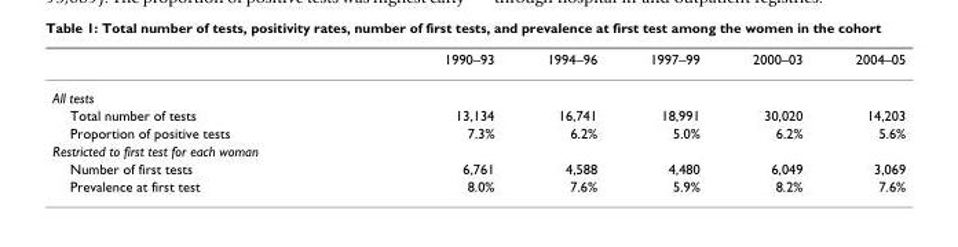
<table><thead><tr><td></td><td>1990–93</td><td>1994–96</td><td>1997–99</td><td>2000–03</td><td>2004–05</td></tr></thead><tbody><tr><td colspan="6">All tests</td></tr><tr><td>Total number of tests</td><td>13,134</td><td>16,741</td><td>18,991</td><td>30,020</td><td>14,203</td></tr><tr><td>Proportion of positive tests</td><td>7.3%</td><td>6.2%</td><td>5.0%</td><td>6.2%</td><td>5.6%</td></tr><tr><td colspan="6">Restricted to first test for each woman</td></tr><tr><td>Number of first tests</td><td>6,761</td><td>4,588</td><td>4,480</td><td>6,049</td><td>3,069</td></tr><tr><td>Prevalence at first test</td><td>8.0%</td><td>7.6%</td><td>5.9%</td><td>8.2%</td><td>7.6%</td></tr></tbody></table>